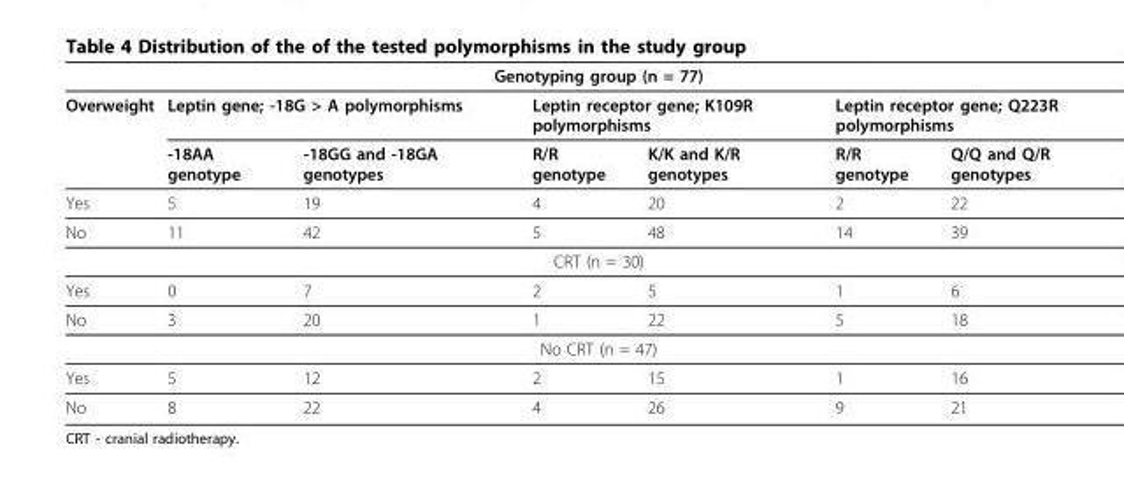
<table><thead><tr><td colspan="7">Genotyping group (n = 77)</td></tr><tr><td rowspan="2">Overweight</td><td colspan="2">Leptin gene; -18G &gt; A polymorphisms</td><td colspan="2">Leptin receptor gene; K109R polymorphisms</td><td colspan="2">Leptin receptor gene; Q223R polymorphisms</td></tr><tr><td>-18AA genotype</td><td>-18GG and -18GA genotypes</td><td>R/R genotype</td><td>K/K and K/R genotypes</td><td>R/R genotype</td><td>Q/Q and Q/R genotypes</td></tr></thead><tbody><tr><td>Yes</td><td>5</td><td>19</td><td>4</td><td>20</td><td>2</td><td>22</td></tr><tr><td>No</td><td>11</td><td>42</td><td>5</td><td>48</td><td>14</td><td>39</td></tr><tr><td colspan="7">CRT (n = 30)</td></tr><tr><td>Yes</td><td>0</td><td>7</td><td>2</td><td>5</td><td>1</td><td>6</td></tr><tr><td>No</td><td>3</td><td>20</td><td>1</td><td>22</td><td>5</td><td>18</td></tr><tr><td colspan="7">No CRT (n = 47)</td></tr><tr><td>Yes</td><td>5</td><td>12</td><td>2</td><td>15</td><td>1</td><td>16</td></tr><tr><td>No</td><td>8</td><td>22</td><td>4</td><td>26</td><td>9</td><td>21</td></tr></tbody></table>